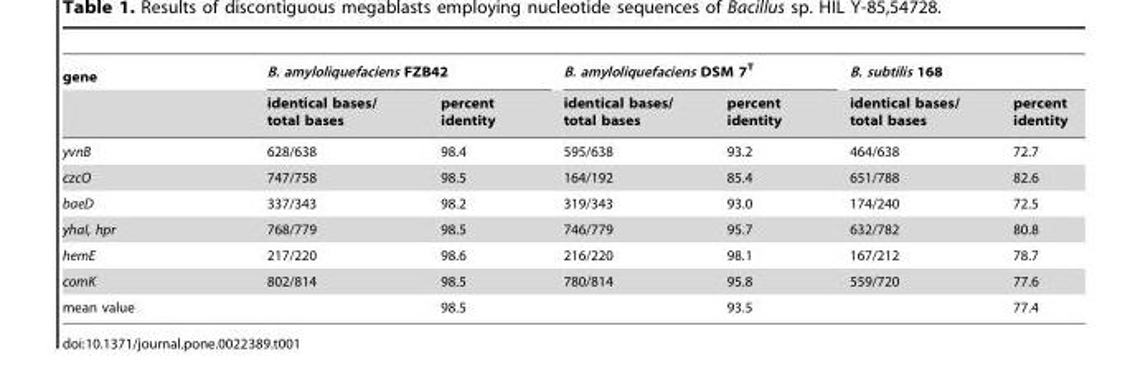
<table><thead><tr><td rowspan="2">gene</td><td colspan="2">B. amyloliquefaciens FZB42</td><td colspan="2">B. amyloliquefaciens DSM 7<sup>T</sup></td><td colspan="2">B. subtilis 168</td></tr><tr><td>identical bases/ total bases</td><td>percent identity</td><td>identical bases/ total bases</td><td>percent identity</td><td>identical bases/ total bases</td><td>percent identity</td></tr></thead><tbody><tr><td>yvnB</td><td>628/638</td><td>98.4</td><td>595/638</td><td>93.2</td><td>464/638</td><td>72.7</td></tr><tr><td>czcO</td><td>747/758</td><td>98.5</td><td>164/192</td><td>85.4</td><td>651/788</td><td>82.6</td></tr><tr><td>baeD</td><td>337/343</td><td>98.2</td><td>319/343</td><td>93.0</td><td>174/240</td><td>72.5</td></tr><tr><td>yhaI, hpr</td><td>768/779</td><td>98.5</td><td>746/779</td><td>95.7</td><td>632/782</td><td>80.8</td></tr><tr><td>hemE</td><td>217/220</td><td>98.6</td><td>216/220</td><td>98.1</td><td>167/212</td><td>78.7</td></tr><tr><td>comK</td><td>802/814</td><td>98.5</td><td>780/814</td><td>95.8</td><td>559/720</td><td>77.6</td></tr><tr><td>mean value</td><td></td><td>98.5</td><td></td><td>93.5</td><td></td><td>77.4</td></tr></tbody></table>